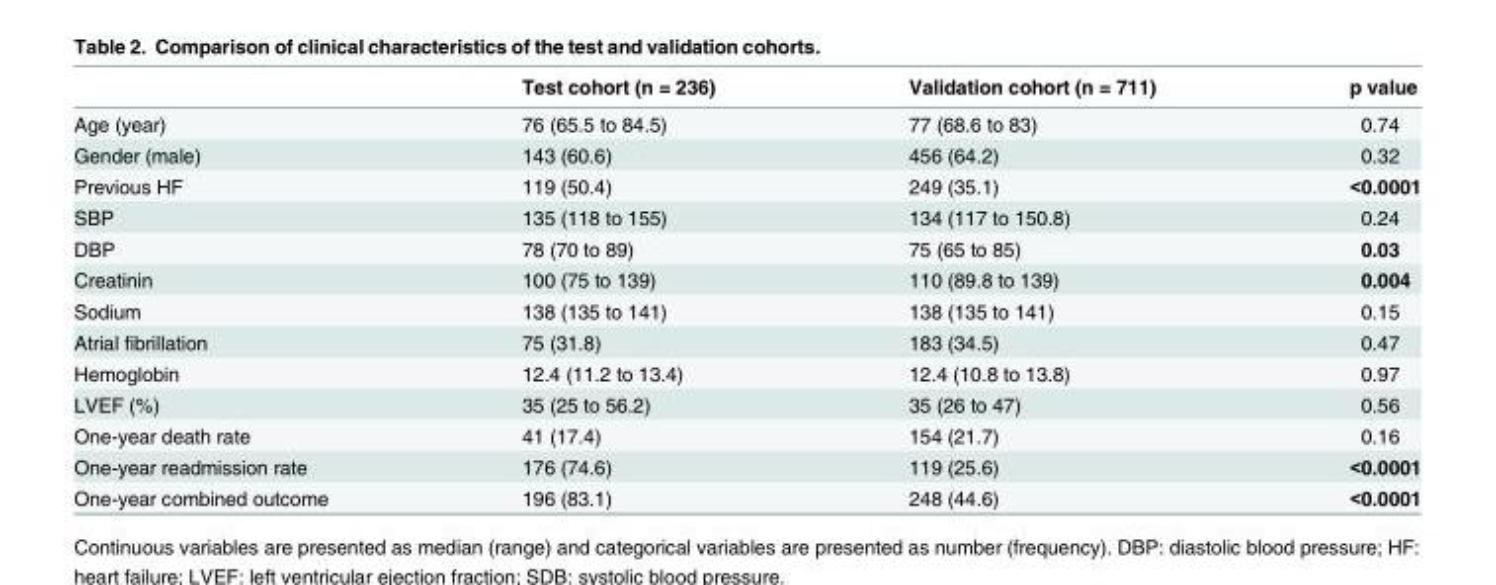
<table><thead><tr><td></td><td>Test cohort (n = 236)</td><td>Validation cohort (n = 711)</td><td>p value</td></tr></thead><tbody><tr><td>Age (year)</td><td>76 (65.5 to 84.5)</td><td>77 (68.6 to 83)</td><td>0.74</td></tr><tr><td>Gender (male)</td><td>143 (60.6)</td><td>456 (64.2)</td><td>0.32</td></tr><tr><td>Previous HF</td><td>119 (50.4)</td><td>249 (35.1)</td><td>&lt;0.0001</td></tr><tr><td>SBP</td><td>135 (118 to 155)</td><td>134 (117 to 150.8)</td><td>0.24</td></tr><tr><td>DBP</td><td>78 (70 to 89)</td><td>75 (65 to 85)</td><td>0.03</td></tr><tr><td>Creatinin</td><td>100 (75 to 139)</td><td>110 (89.8 to 139)</td><td>0.004</td></tr><tr><td>Sodium</td><td>138 (135 to 141)</td><td>138 (135 to 141)</td><td>0.15</td></tr><tr><td>Atrial fibrillation</td><td>75 (31.8)</td><td>183 (34.5)</td><td>0.47</td></tr><tr><td>Hemoglobin</td><td>12.4 (11.2 to 13.4)</td><td>12.4 (10.8 to 13.8)</td><td>0.97</td></tr><tr><td>LVEF (%)</td><td>35 (25 to 56.2)</td><td>35 (26 to 47)</td><td>0.56</td></tr><tr><td>One-year death rate</td><td>41 (17.4)</td><td>154 (21.7)</td><td>0.16</td></tr><tr><td>One-year readmission rate</td><td>176 (74.6)</td><td>119 (25.6)</td><td>&lt;0.0001</td></tr><tr><td>One-year combined outcome</td><td>196 (83.1)</td><td>248 (44.6)</td><td>&lt;0.0001</td></tr></tbody></table>